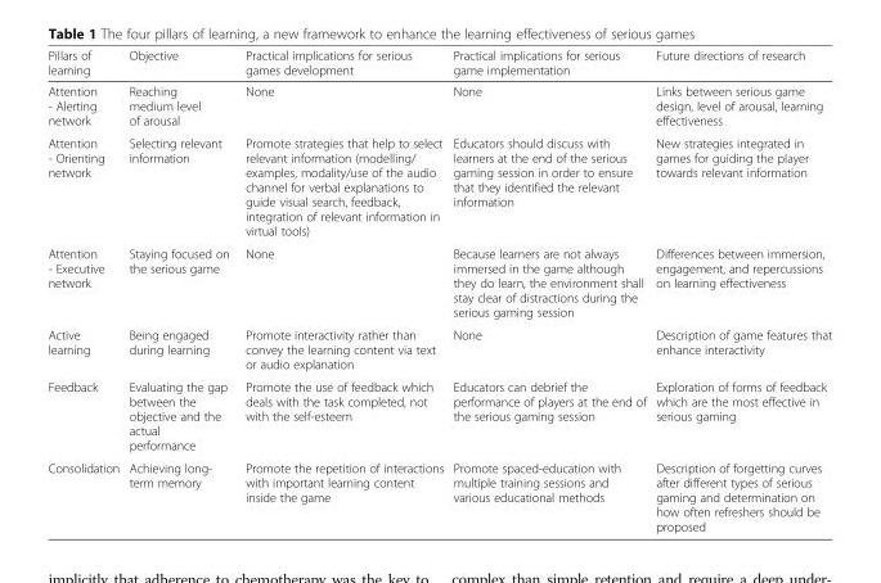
<table><thead><tr><td>Pillars of learning</td><td>Objective</td><td>Practical implications for serious games development</td><td>Practical implications for serious game implementation</td><td>Future directions of research</td></tr></thead><tbody><tr><td>Attention - Alerting network</td><td>Reaching medium level of arousal</td><td>None</td><td>None</td><td>Links between serious game design, level of arousal, learning effectiveness</td></tr><tr><td>Attention - Orienting network</td><td>Selecting relevant information</td><td>Promote strategies that help to select relevant information (modelling/ examples, modality/use of the audio channel for verbal explanations to guide visual search, feedback, integration of relevant information in virtual tools)</td><td>Educators should discuss with learners at the end of the serious gaming session in order to ensure that they identified the relevant information</td><td>New strategies integrated in games for guiding the player towards relevant information</td></tr><tr><td>Attention - Executive network</td><td>Staying focused on the serious game</td><td>None</td><td>Because learners are not always immersed in the game although they do learn, the environment shall stay clear of distractions during the serious gaming session</td><td>Differences between immersion, engagement, and repercussions on learning effectiveness</td></tr><tr><td>Active learning</td><td>Being engaged during learning</td><td>Promote interactivity rather than convey the learning content via text or audio explanation</td><td>None</td><td>Description of game features that enhance interactivity</td></tr><tr><td>Feedback</td><td>Evaluating the gap between the objective and the actual performance</td><td>Promote the use of feedback which deals with the task completed, not with the self-esteem</td><td>Educators can debrief the performance of players at the end of the serious gaming session</td><td>Exploration of forms of feedback which are the most effective in serious gaming</td></tr><tr><td>Consolidation</td><td>Achieving long- term memory</td><td>Promote the repetition of interactions with important learning content inside the game</td><td>Promote spaced-education with multiple training sessions and various educational methods</td><td>Description of forgetting curves after different types of serious gaming and determination on how often refreshers should be proposed</td></tr></tbody></table>